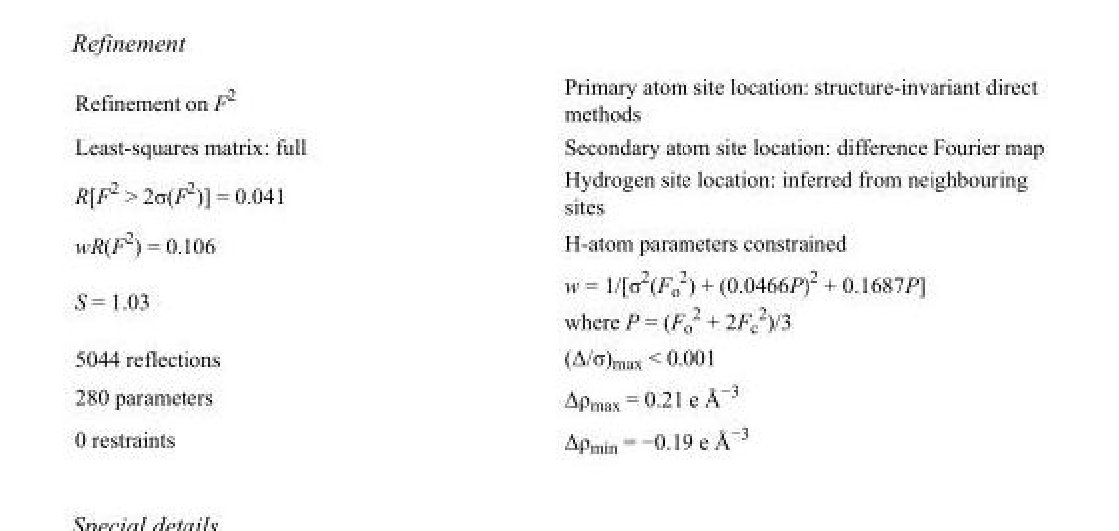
<table><tbody><tr><td>Refinement on F<sup>2</sup></td><td>Primary atom site location: structure-invariant direct methods</td></tr><tr><td>Least-squares matrix: full</td><td>Secondary atom site location: difference Fourier map</td></tr><tr><td>R[F<sup>2</sup> &gt; 2σ(F<sup>2</sup>)] = 0.041</td><td>Hydrogen site location: inferred from neighbouring sites</td></tr><tr><td>wR(F<sup>2</sup>) = 0.106</td><td>H-atom parameters constrained</td></tr><tr><td>S = 1.03</td><td>w = 1/[σ<sup>2</sup>(F<sub>o</sub> <sup>2</sup>) + (0.0466P)<sup>2</sup> + 0.1687P] where P = (F<sub>o</sub> <sup>2</sup> + 2F<sub>c</sub> <sup>2</sup>)/3</td></tr><tr><td>5044 reflections</td><td>(Δ/σ)<sub>max</sub> &lt; 0.001</td></tr><tr><td>280 parameters</td><td>Δρ<sub>max</sub> = 0.21 e Å<sup>−3</sup></td></tr><tr><td>0 restraints</td><td>Δρ<sub>min</sub> = −0.19 e Å<sup>−3</sup></td></tr></tbody></table>